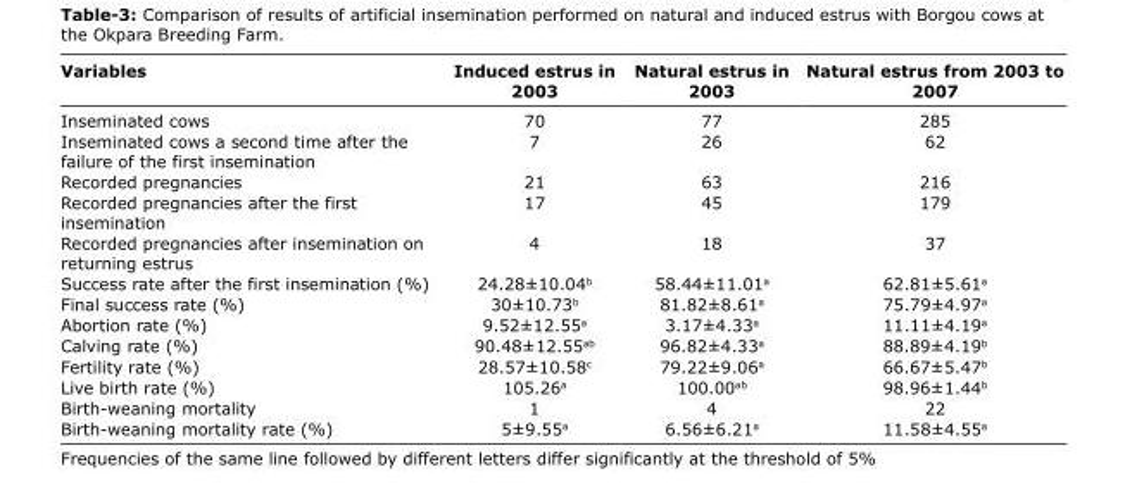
<table><thead><tr><td>Variables</td><td>Induced estrus in 2003</td><td>Natural estrus in 2003</td><td>Natural estrus from 2003 to 2007</td></tr></thead><tbody><tr><td>Inseminated cows</td><td>70</td><td>77</td><td>285</td></tr><tr><td>Inseminated cows a second time after the failure of the first insemination</td><td>7</td><td>26</td><td>62</td></tr><tr><td>Recorded pregnancies</td><td>21</td><td>63</td><td>216</td></tr><tr><td>Recorded pregnancies after the first insemination</td><td>17</td><td>45</td><td>179</td></tr><tr><td>Recorded pregnancies after insemination on returning estrus</td><td>4</td><td>18</td><td>37</td></tr><tr><td>Success rate after the first insemination (%)</td><td>24.28±10.04<sup>b</sup></td><td>58.44±11.01<sup>a</sup></td><td>62.81±5.61<sup>a</sup></td></tr><tr><td>Final success rate (%)</td><td>30±10.73<sup>b</sup></td><td>81.82±8.61<sup>a</sup></td><td>75.79±4.97<sup>a</sup></td></tr><tr><td>Abortion rate (%)</td><td>9.52±12.55<sup>a</sup></td><td>3.17±4.33<sup>a</sup></td><td>11.11±4.19<sup>a</sup></td></tr><tr><td>Calving rate (%)</td><td>90.48±12.55<sup>ab</sup></td><td>96.82±4.33<sup>a</sup></td><td>88.89±4.19<sup>b</sup></td></tr><tr><td>Fertility rate (%)</td><td>28.57±10.58<sup>c</sup></td><td>79.22±9.06<sup>a</sup></td><td>66.67±5.47<sup>b</sup></td></tr><tr><td>Live birth rate (%)</td><td>105.26<sup>a</sup></td><td>100.00<sup>ab</sup></td><td>98.96±1.44<sup>b</sup></td></tr><tr><td>Birth-weaning mortality</td><td>1</td><td>4</td><td>22</td></tr><tr><td>Birth-weaning mortality rate (%)</td><td>5±9.55<sup>a</sup></td><td>6.56±6.21<sup>a</sup></td><td>11.58±4.55<sup>a</sup></td></tr></tbody></table>